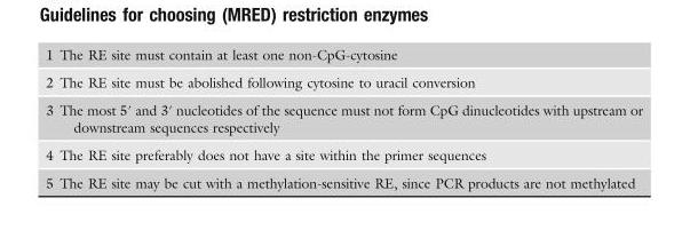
<table><tbody><tr><td>1</td><td>The RE site must contain at least one non-CpG-cytosine</td></tr><tr><td>2</td><td>The RE site must be abolished following cytosine to uracil conversion</td></tr><tr><td>3</td><td>The most 5′ and 3′ nucleotides of the sequence must not form CpG dinucleotides with upstream or downstream sequences respectively</td></tr><tr><td>4</td><td>The RE site preferably does not have a site within the primer sequences</td></tr><tr><td>5</td><td>The RE site may be cut with a methylation-sensitive RE, since PCR products are not methylated</td></tr></tbody></table>